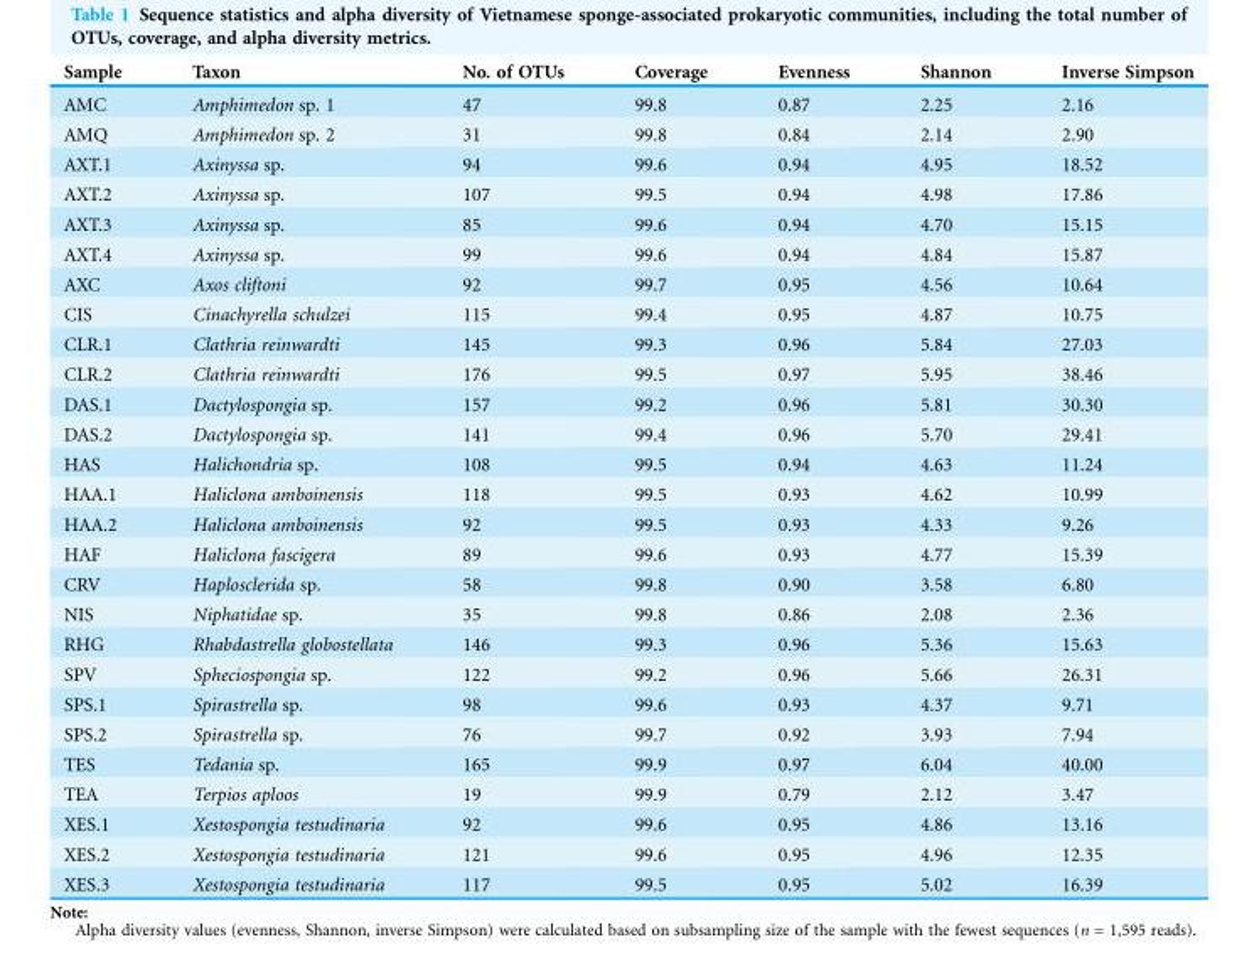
<table><thead><tr><td>Sample</td><td>Taxon</td><td>No. of OTUs</td><td>Coverage</td><td>Evenness</td><td>Shannon</td><td>Inverse Simpson</td></tr></thead><tbody><tr><td>AMC</td><td>Amphimedon sp. 1</td><td>47</td><td>99.8</td><td>0.87</td><td>2.25</td><td>2.16</td></tr><tr><td>AMQ</td><td>Amphimedon sp. 2</td><td>31</td><td>99.8</td><td>0.84</td><td>2.14</td><td>2.90</td></tr><tr><td>AXT.1</td><td>Axinyssa sp.</td><td>94</td><td>99.6</td><td>0.94</td><td>4.95</td><td>18.52</td></tr><tr><td>AXT.2</td><td>Axinyssa sp.</td><td>107</td><td>99.5</td><td>0.94</td><td>4.98</td><td>17.86</td></tr><tr><td>AXT.3</td><td>Axinyssa sp.</td><td>85</td><td>99.6</td><td>0.94</td><td>4.70</td><td>15.15</td></tr><tr><td>AXT.4</td><td>Axinyssa sp.</td><td>99</td><td>99.6</td><td>0.94</td><td>4.84</td><td>15.87</td></tr><tr><td>AXC</td><td>Axos cliftoni</td><td>92</td><td>99.7</td><td>0.95</td><td>4.56</td><td>10.64</td></tr><tr><td>CIS</td><td>Cinachyrella schulzei</td><td>115</td><td>99.4</td><td>0.95</td><td>4.87</td><td>10.75</td></tr><tr><td>CLR.1</td><td>Clathria reinwardti</td><td>145</td><td>99.3</td><td>0.96</td><td>5.84</td><td>27.03</td></tr><tr><td>CLR.2</td><td>Clathria reinwardti</td><td>176</td><td>99.5</td><td>0.97</td><td>5.95</td><td>38.46</td></tr><tr><td>DAS.1</td><td>Dactylospongia sp.</td><td>157</td><td>99.2</td><td>0.96</td><td>5.81</td><td>30.30</td></tr><tr><td>DAS.2</td><td>Dactylospongia sp.</td><td>141</td><td>99.4</td><td>0.96</td><td>5.70</td><td>29.41</td></tr><tr><td>HAS</td><td>Halichondria sp.</td><td>108</td><td>99.5</td><td>0.94</td><td>4.63</td><td>11.24</td></tr><tr><td>HAA.1</td><td>Haliclona amboinensis</td><td>118</td><td>99.5</td><td>0.93</td><td>4.62</td><td>10.99</td></tr><tr><td>HAA.2</td><td>Haliclona amboinensis</td><td>92</td><td>99.5</td><td>0.93</td><td>4.33</td><td>9.26</td></tr><tr><td>HAF</td><td>Haliclona fascigera</td><td>89</td><td>99.6</td><td>0.93</td><td>4.77</td><td>15.39</td></tr><tr><td>CRV</td><td>Haplosclerida sp.</td><td>58</td><td>99.8</td><td>0.90</td><td>3.58</td><td>6.80</td></tr><tr><td>NIS</td><td>Niphatidae sp.</td><td>35</td><td>99.8</td><td>0.86</td><td>2.08</td><td>2.36</td></tr><tr><td>RHG</td><td>Rhabdastrella globostellata</td><td>146</td><td>99.3</td><td>0.96</td><td>5.36</td><td>15.63</td></tr><tr><td>SPV</td><td>Spheciospongia sp.</td><td>122</td><td>99.2</td><td>0.96</td><td>5.66</td><td>26.31</td></tr><tr><td>SPS.1</td><td>Spirastrella sp.</td><td>98</td><td>99.6</td><td>0.93</td><td>4.37</td><td>9.71</td></tr><tr><td>SPS.2</td><td>Spirastrella sp.</td><td>76</td><td>99.7</td><td>0.92</td><td>3.93</td><td>7.94</td></tr><tr><td>TES</td><td>Tedania sp.</td><td>165</td><td>99.9</td><td>0.97</td><td>6.04</td><td>40.00</td></tr><tr><td>TEA</td><td>Terpios aploos</td><td>19</td><td>99.9</td><td>0.79</td><td>2.12</td><td>3.47</td></tr><tr><td>XES.1</td><td>Xestospongia testudinaria</td><td>92</td><td>99.6</td><td>0.95</td><td>4.86</td><td>13.16</td></tr><tr><td>XES.2</td><td>Xestospongia testudinaria</td><td>121</td><td>99.6</td><td>0.95</td><td>4.96</td><td>12.35</td></tr><tr><td>XES.3</td><td>Xestospongia testudinaria</td><td>117</td><td>99.5</td><td>0.95</td><td>5.02</td><td>16.39</td></tr></tbody></table>